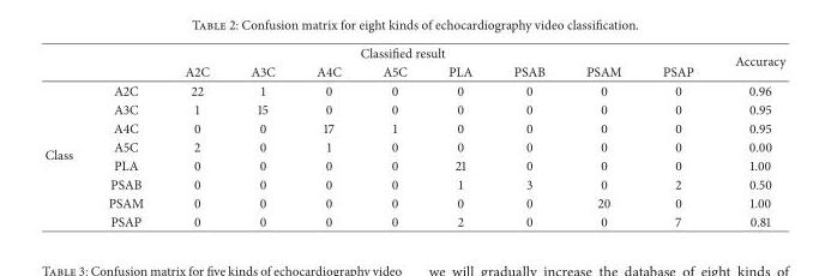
<table><thead><tr><td rowspan="2"></td><td colspan="9">Classified result</td><td rowspan="2">Accuracy</td></tr><tr><td></td><td>A2C</td><td>A3C</td><td>A4C</td><td>A5C</td><td>PLA</td><td>PSAB</td><td>PSAM</td><td>PSAP</td></tr></thead><tbody><tr><td rowspan="8">Class</td><td>A2C</td><td>22</td><td>1</td><td>0</td><td>0</td><td>0</td><td>0</td><td>0</td><td>0</td><td>0.96</td></tr><tr><td>A3C</td><td>1</td><td>15</td><td>0</td><td>0</td><td>0</td><td>0</td><td>0</td><td>0</td><td>0.95</td></tr><tr><td>A4C</td><td>0</td><td>0</td><td>17</td><td>1</td><td>0</td><td>0</td><td>0</td><td>0</td><td>0.95</td></tr><tr><td>A5C</td><td>2</td><td>0</td><td>1</td><td>0</td><td>0</td><td>0</td><td>0</td><td>0</td><td>0.00</td></tr><tr><td>PLA</td><td>0</td><td>0</td><td>0</td><td>0</td><td>21</td><td>0</td><td>0</td><td>0</td><td>1.00</td></tr><tr><td>PSAB</td><td>0</td><td>0</td><td>0</td><td>0</td><td>1</td><td>3</td><td>0</td><td>2</td><td>0.50</td></tr><tr><td>PSAM</td><td>0</td><td>0</td><td>0</td><td>0</td><td>0</td><td>0</td><td>20</td><td>0</td><td>1.00</td></tr><tr><td>PSAP</td><td>0</td><td>0</td><td>0</td><td>0</td><td>2</td><td>0</td><td>0</td><td>7</td><td>0.81</td></tr></tbody></table>